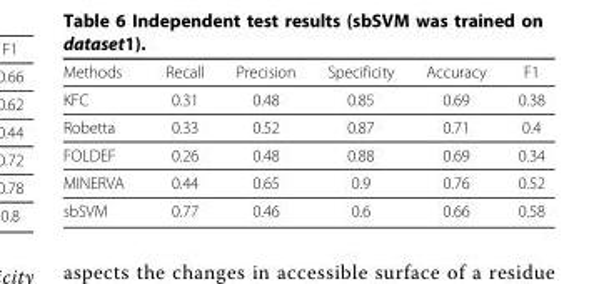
<table><thead><tr><td>Methods</td><td>Recall</td><td>Precision</td><td>Specificity</td><td>Accuracy</td><td>F1</td></tr></thead><tbody><tr><td>KFC</td><td>0.31</td><td>0.48</td><td>0.85</td><td>0.69</td><td>0.38</td></tr><tr><td>Robetta</td><td>0.33</td><td>0.52</td><td>0.87</td><td>0.71</td><td>0.4</td></tr><tr><td>FOLDEF</td><td>0.26</td><td>0.48</td><td>0.88</td><td>0.69</td><td>0.34</td></tr><tr><td>MINERVA</td><td>0.44</td><td>0.65</td><td>0.9</td><td>0.76</td><td>0.52</td></tr><tr><td>sbSVM</td><td>0.77</td><td>0.46</td><td>0.6</td><td>0.66</td><td>0.58</td></tr></tbody></table>